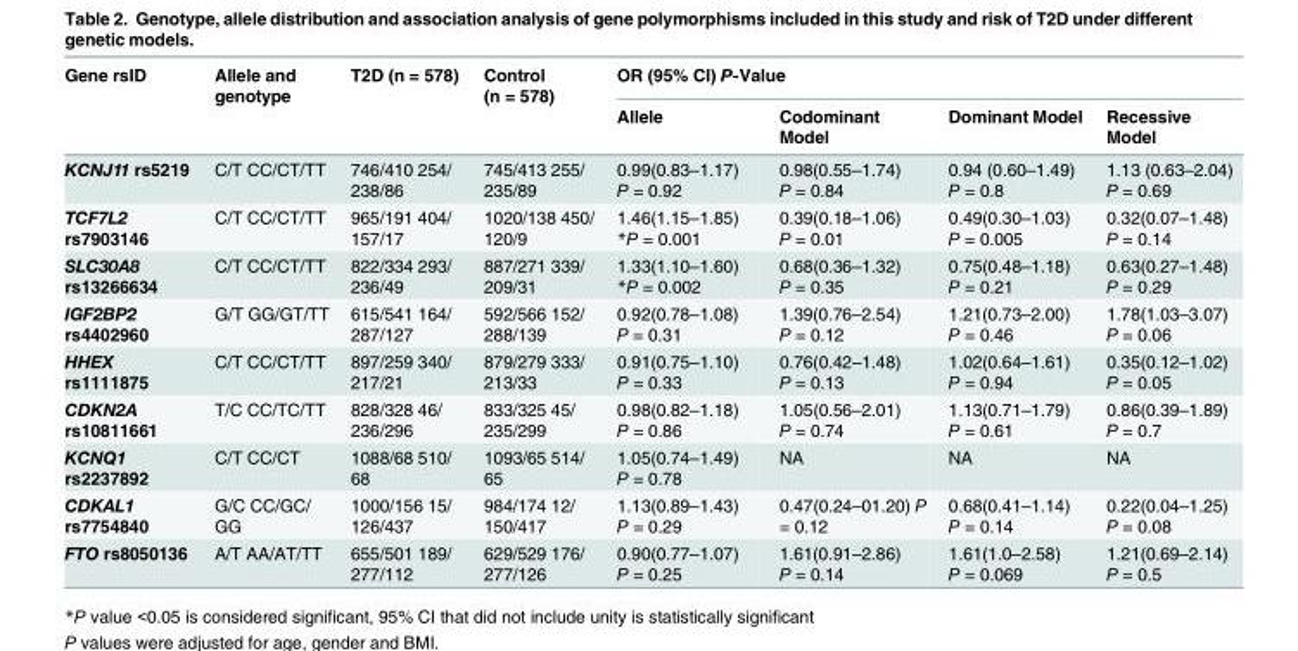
<table><thead><tr><td rowspan="2">Gene rsID</td><td rowspan="2">Allele and genotype</td><td rowspan="2">T2D (n = 578)</td><td rowspan="2">Control (n = 578)</td><td colspan="4">OR (95% CI) P-Value</td></tr><tr><td>Allele</td><td>Codominant Model</td><td>Dominant Model</td><td>Recessive Model</td></tr></thead><tbody><tr><td>KCNJ11 rs5219</td><td>C/T CC/CT/TT</td><td>746/410 254/ 238/86</td><td>745/413 255/ 235/89</td><td>0.99(0.83–1.17) P = 0.92</td><td>0.98(0.55–1.74) P = 0.84</td><td>0.94 (0.60–1.49) P = 0.8</td><td>1.13 (0.63–2.04) P = 0.69</td></tr><tr><td>TCF7L2 rs7903146</td><td>C/T CC/CT/TT</td><td>965/191 404/ 157/17</td><td>1020/138 450/ 120/9</td><td>1.46(1.15–1.85) *P = 0.001</td><td>0.39(0.18–1.06) P = 0.01</td><td>0.49(0.30–1.03) P = 0.005</td><td>0.32(0.07–1.48) P = 0.14</td></tr><tr><td>SLC30A8 rs13266634</td><td>C/T CC/CT/TT</td><td>822/334 293/ 236/49</td><td>887/271 339/ 209/31</td><td>1.33(1.10–1.60) *P = 0.002</td><td>0.68(0.36–1.32) P = 0.35</td><td>0.75(0.48–1.18) P = 0.21</td><td>0.63(0.27–1.48) P = 0.29</td></tr><tr><td>IGF2BP2 rs4402960</td><td>G/T GG/GT/TT</td><td>615/541 164/ 287/127</td><td>592/566 152/ 288/139</td><td>0.92(0.78–1.08) P = 0.31</td><td>1.39(0.76–2.54) P = 0.12</td><td>1.21(0.73–2.00) P = 0.46</td><td>1.78(1.03–3.07) P = 0.06</td></tr><tr><td>HHEX rs1111875</td><td>C/T CC/CT/TT</td><td>897/259 340/ 217/21</td><td>879/279 333/ 213/33</td><td>0.91(0.75–1.10) P = 0.33</td><td>0.76(0.42–1.48) P = 0.13</td><td>1.02(0.64–1.61) P = 0.94</td><td>0.35(0.12–1.02) P = 0.05</td></tr><tr><td>CDKN2A rs10811661</td><td>T/C CC/TC/TT</td><td>828/328 46/ 236/296</td><td>833/325 45/ 235/299</td><td>0.98(0.82–1.18) P = 0.86</td><td>1.05(0.56–2.01) P = 0.74</td><td>1.13(0.71–1.79) P = 0.61</td><td>0.86(0.39–1.89) P = 0.7</td></tr><tr><td>KCNQ1 rs2237892</td><td>C/T CC/CT</td><td>1088/68 510/ 68</td><td>1093/65 514/ 65</td><td>1.05(0.74–1.49) P = 0.78</td><td>NA</td><td>NA</td><td>NA</td></tr><tr><td>CDKAL1 rs7754840</td><td>G/C CC/GC/ GG</td><td>1000/156 15/ 126/437</td><td>984/174 12/ 150/417</td><td>1.13(0.89–1.43) P = 0.29</td><td>0.47(0.24–01.20) P = 0.12</td><td>0.68(0.41–1.14) P = 0.14</td><td>0.22(0.04–1.25) P = 0.08</td></tr><tr><td>FTO rs8050136</td><td>A/T AA/AT/TT</td><td>655/501 189/ 277/112</td><td>629/529 176/ 277/126</td><td>0.90(0.77–1.07) P = 0.25</td><td>1.61(0.91–2.86) P = 0.14</td><td>1.61(1.0–2.58) P = 0.069</td><td>1.21(0.69–2.14) P = 0.5</td></tr></tbody></table>